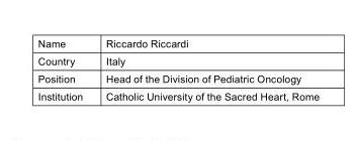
<table><tbody><tr><td>Name</td><td>Riccardo Riccardi</td></tr><tr><td>Country</td><td>Italy</td></tr><tr><td>Position</td><td>Head of the Division of Pediatric Oncology</td></tr><tr><td>Institution</td><td>Catholic University of the Sacred Heart, Rome</td></tr></tbody></table>